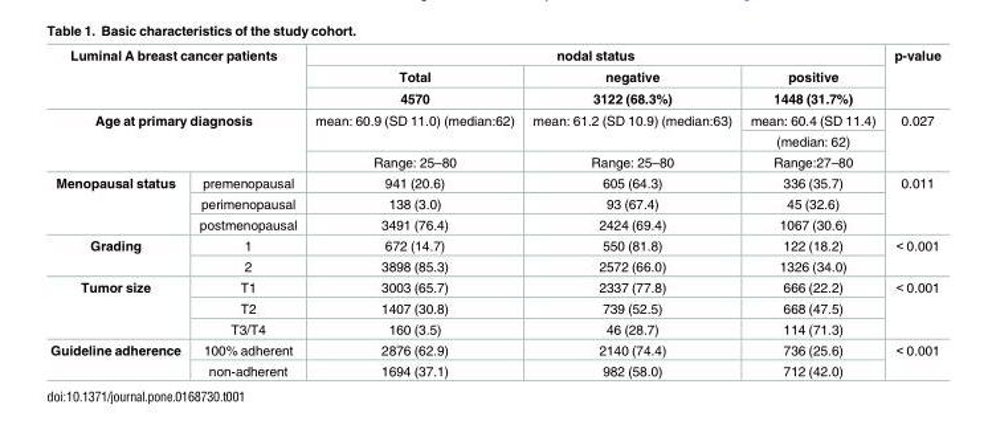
<table><thead><tr><td rowspan="3" colspan="2">Luminal A breast cancer patients</td><td colspan="3">nodal status</td><td rowspan="3">p-value</td></tr><tr><td rowspan="2">Total 4570</td><td rowspan="2">negative 3122 (68.3%)</td><td rowspan="2">positive 1448 (31.7%)</td></tr><tr></tr></thead><tbody><tr><td rowspan="3" colspan="2">Age at primary diagnosis</td><td rowspan="2">mean: 60.9 (SD 11.0) (median:62)</td><td rowspan="2">mean: 61.2 (SD 10.9) (median:63)</td><td>mean: 60.4 (SD 11.4)</td><td rowspan="3">0.027</td></tr><tr><td>(median: 62)</td></tr><tr><td>Range: 25–80</td><td>Range: 25–80</td><td>Range:27–80</td></tr><tr><td rowspan="3">Menopausal status</td><td>premenopausal</td><td>941 (20.6)</td><td>605 (64.3)</td><td>336 (35.7)</td><td rowspan="3">0.011</td></tr><tr><td>perimenopausal</td><td>138 (3.0)</td><td>93 (67.4)</td><td>45 (32.6)</td></tr><tr><td>postmenopausal</td><td>3491 (76.4)</td><td>2424 (69.4)</td><td>1067 (30.6)</td></tr><tr><td rowspan="2">Grading</td><td>1</td><td>672 (14.7)</td><td>550 (81.8)</td><td>122 (18.2)</td><td rowspan="2">&lt; 0.001</td></tr><tr><td>2</td><td>3898 (85.3)</td><td>2572 (66.0)</td><td>1326 (34.0)</td></tr><tr><td rowspan="3">Tumor size</td><td>T1</td><td>3003 (65.7)</td><td>2337 (77.8)</td><td>666 (22.2)</td><td rowspan="3">&lt; 0.001</td></tr><tr><td>T2</td><td>1407 (30.8)</td><td>739 (52.5)</td><td>668 (47.5)</td></tr><tr><td>T3/T4</td><td>160 (3.5)</td><td>46 (28.7)</td><td>114 (71.3)</td></tr><tr><td rowspan="2">Guideline adherence</td><td>100% adherent</td><td>2876 (62.9)</td><td>2140 (74.4)</td><td>736 (25.6)</td><td rowspan="2">&lt; 0.001</td></tr><tr><td>non-adherent</td><td>1694 (37.1)</td><td>982 (58.0)</td><td>712 (42.0)</td></tr></tbody></table>